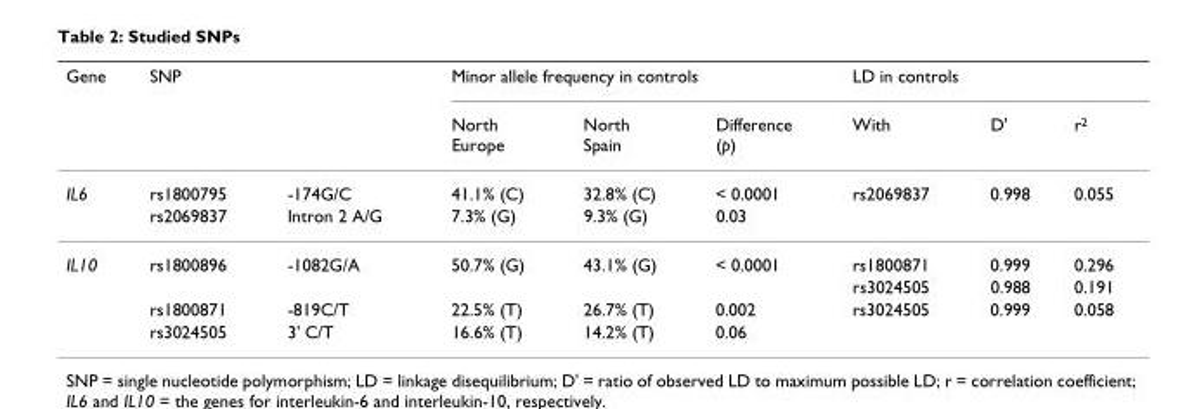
<table><thead><tr><td rowspan="2">Gene</td><td rowspan="2">SNP</td><td rowspan="2"></td><td colspan="3">Minor allele frequency in controls</td><td colspan="3">LD in controls</td></tr><tr><td>North Europe</td><td>North Spain</td><td>Difference (p)</td><td>With</td><td>D&#x27;</td><td>r<sup>2</sup></td></tr></thead><tbody><tr><td rowspan="2">IL6</td><td>rs1800795</td><td>-174G/C</td><td>41.1% (C)</td><td>32.8% (C)</td><td>&lt; 0.0001</td><td>rs2069837</td><td>0.998</td><td>0.055</td></tr><tr><td>rs2069837</td><td>Intron 2 A/G</td><td>7.3% (G)</td><td>9.3% (G)</td><td>0.03</td><td></td><td></td><td></td></tr><tr><td rowspan="4">IL10</td><td>rs1800896</td><td>-1082G/A</td><td>50.7% (G)</td><td>43.1% (G)</td><td>&lt; 0.0001</td><td>rs1800871</td><td>0.999</td><td>0.296</td></tr><tr><td></td><td></td><td></td><td></td><td></td><td>rs3024505</td><td>0.988</td><td>0.191</td></tr><tr><td>rs1800871</td><td>-819C/T</td><td>22.5% (T)</td><td>26.7% (T)</td><td>0.002</td><td>rs3024505</td><td>0.999</td><td>0.058</td></tr><tr><td>rs3024505</td><td>3&#x27; C/T</td><td>16.6% (T)</td><td>14.2% (T)</td><td>0.06</td><td></td><td></td><td></td></tr></tbody></table>